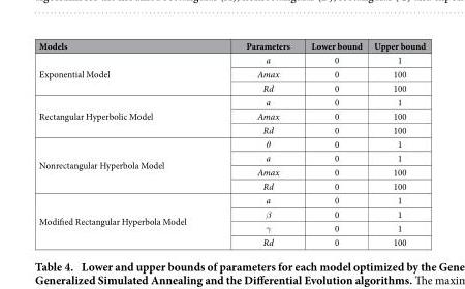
<table><thead><tr><td>Models</td><td>Parameters</td><td>Lower bound</td><td>Upper bound</td></tr></thead><tbody><tr><td rowspan="3">Exponential Model</td><td>a</td><td>0</td><td>1</td></tr><tr><td>Amax</td><td>0</td><td>100</td></tr><tr><td>Rd</td><td>0</td><td>100</td></tr><tr><td rowspan="3">Rectangular Hyperbolic Model</td><td>a</td><td>0</td><td>1</td></tr><tr><td>Amax</td><td>0</td><td>100</td></tr><tr><td>Rd</td><td>0</td><td>100</td></tr><tr><td rowspan="4">Nonrectangular Hyperbola Model</td><td>θ</td><td>0</td><td>1</td></tr><tr><td>a</td><td>0</td><td>1</td></tr><tr><td>Amax</td><td>0</td><td>100</td></tr><tr><td>Rd</td><td>0</td><td>100</td></tr><tr><td rowspan="4">Modified Rectangular Hyperbola Model</td><td>a</td><td>0</td><td>1</td></tr><tr><td>β</td><td>0</td><td>1</td></tr><tr><td>γ</td><td>0</td><td>1</td></tr><tr><td>Rd</td><td>0</td><td>100</td></tr></tbody></table>